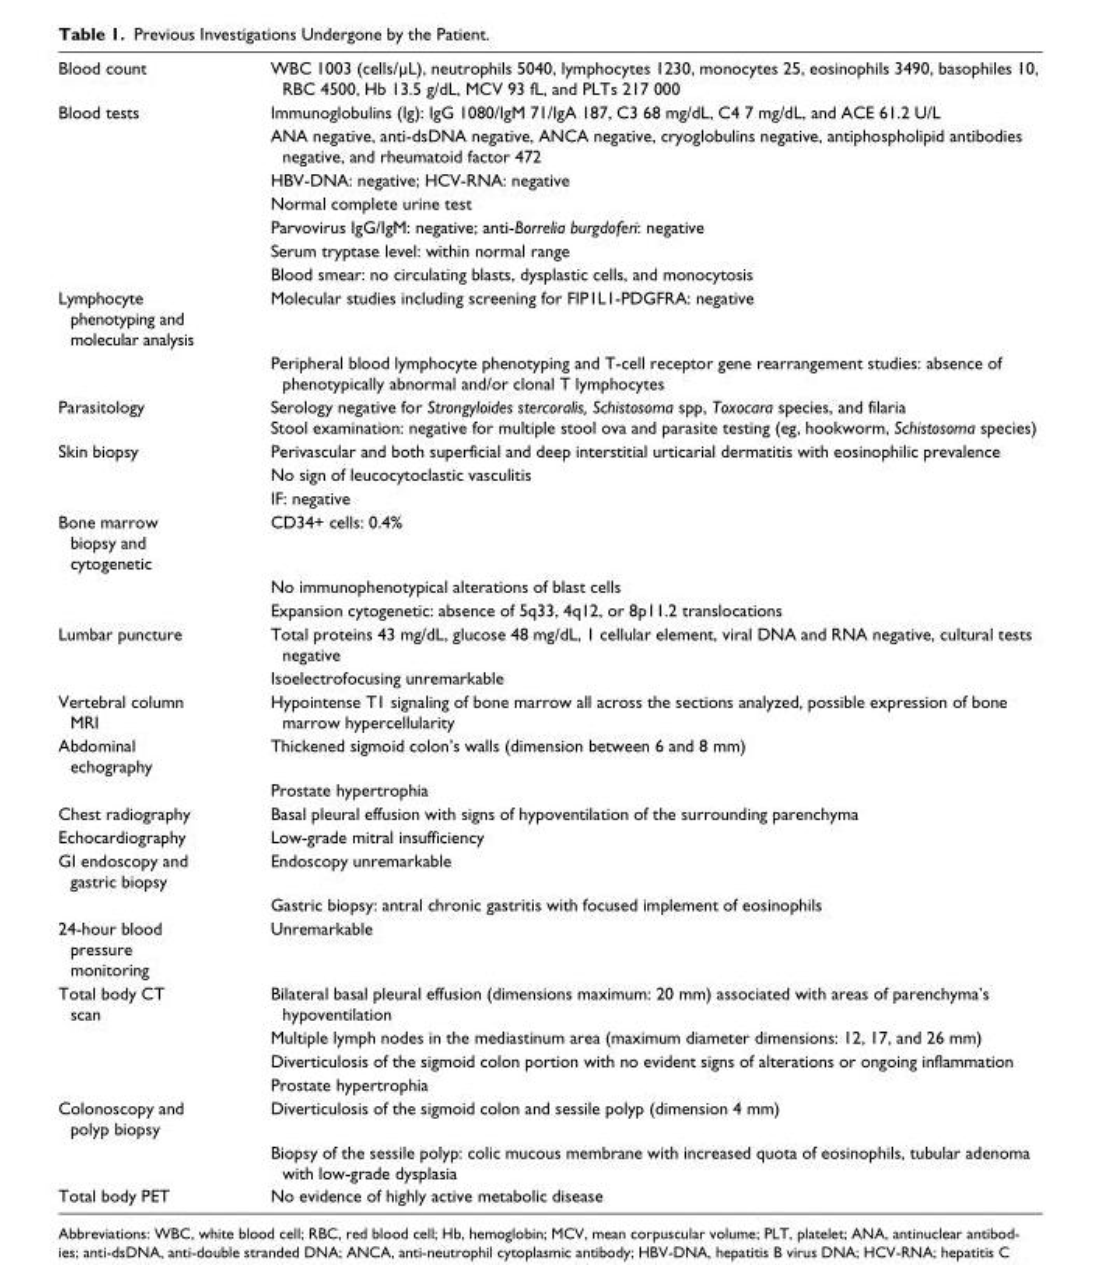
<table><tbody><tr><td>Blood count</td><td>WBC 1003 (cells/µL), neutrophils 5040, lymphocytes 1230, monocytes 25, eosinophils 3490, basophiles 10, RBC 4500, Hb 13.5 g/dL, MCV 93 fL, and PLTs 217 000</td></tr><tr><td rowspan="7">Blood tests</td><td>Immunoglobulins (Ig): IgG 1080/IgM 71/IgA 187, C3 68 mg/dL, C4 7 mg/dL, and ACE 61.2 U/L</td></tr><tr><td>ANA negative, anti-dsDNA negative, ANCA negative, cryoglobulins negative, antiphospholipid antibodies negative, and rheumatoid factor 472</td></tr><tr><td>HBV-DNA: negative; HCV-RNA: negative</td></tr><tr><td>Normal complete urine test</td></tr><tr><td>Parvovirus IgG/IgM: negative; anti-Borrelia burgdoferi: negative</td></tr><tr><td>Serum tryptase level: within normal range</td></tr><tr><td>Blood smear: no circulating blasts, dysplastic cells, and monocytosis</td></tr><tr><td rowspan="2">Lymphocyte phenotyping and molecular analysis</td><td>Molecular studies including screening for FIP1L1-PDGFRA: negative</td></tr><tr><td>Peripheral blood lymphocyte phenotyping and T-cell receptor gene rearrangement studies: absence of phenotypically abnormal and/or clonal T lymphocytes</td></tr><tr><td>Parasitology</td><td>Serology negative for Strongyloides stercoralis, Schistosoma spp, Toxocara species, and filaria Stool examination: negative for multiple stool ova and parasite testing (eg, hookworm, Schistosoma species)</td></tr><tr><td rowspan="3">Skin biopsy</td><td>Perivascular and both superficial and deep interstitial urticarial dermatitis with eosinophilic prevalence</td></tr><tr><td>No sign of leucocytoclastic vasculitis</td></tr><tr><td>IF: negative</td></tr><tr><td rowspan="3">Bone marrow biopsy and cytogenetic</td><td>CD34+ cells: 0.4%</td></tr><tr><td>No immunophenotypical alterations of blast cells</td></tr><tr><td>Expansion cytogenetic: absence of 5q33, 4q12, or 8p11.2 translocations</td></tr><tr><td rowspan="2">Lumbar puncture</td><td>Total proteins 43 mg/dL, glucose 48 mg/dL, 1 cellular element, viral DNA and RNA negative, cultural tests negative</td></tr><tr><td>Isoelectrofocusing unremarkable</td></tr><tr><td>Vertebral column MRI</td><td>Hypointense T1 signaling of bone marrow all across the sections analyzed, possible expression of bone marrow hypercellularity</td></tr><tr><td rowspan="2">Abdominal echography</td><td>Thickened sigmoid colon’s walls (dimension between 6 and 8 mm)</td></tr><tr><td>Prostate hypertrophia</td></tr><tr><td>Chest radiography</td><td>Basal pleural effusion with signs of hypoventilation of the surrounding parenchyma</td></tr><tr><td>Echocardiography</td><td>Low-grade mitral insufficiency</td></tr><tr><td rowspan="2">GI endoscopy and gastric biopsy</td><td>Endoscopy unremarkable</td></tr><tr><td>Gastric biopsy: antral chronic gastritis with focused implement of eosinophils</td></tr><tr><td>24-hour blood pressure monitoring</td><td>Unremarkable</td></tr><tr><td rowspan="4">Total body CT scan</td><td>Bilateral basal pleural effusion (dimensions maximum: 20 mm) associated with areas of parenchyma’s hypoventilation</td></tr><tr><td>Multiple lymph nodes in the mediastinum area (maximum diameter dimensions: 12, 17, and 26 mm)</td></tr><tr><td>Diverticulosis of the sigmoid colon portion with no evident signs of alterations or ongoing inflammation</td></tr><tr><td>Prostate hypertrophia</td></tr><tr><td rowspan="2">Colonoscopy and polyp biopsy</td><td>Diverticulosis of the sigmoid colon and sessile polyp (dimension 4 mm)</td></tr><tr><td>Biopsy of the sessile polyp: colic mucous membrane with increased quota of eosinophils, tubular adenoma with low-grade dysplasia</td></tr><tr><td>Total body PET</td><td>No evidence of highly active metabolic disease</td></tr></tbody></table>